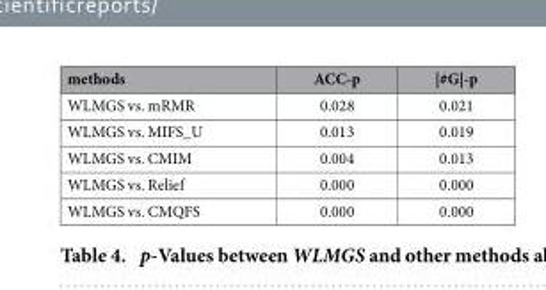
<table><thead><tr><td>methods</td><td>ACC-p</td><td>|#G|-p</td></tr></thead><tbody><tr><td>WLMGS vs. mRMR</td><td>0.028</td><td>0.021</td></tr><tr><td>WLMGS vs. MIFS_U</td><td>0.013</td><td>0.019</td></tr><tr><td>WLMGS vs. CMIM</td><td>0.004</td><td>0.013</td></tr><tr><td>WLMGS vs. Relief</td><td>0.000</td><td>0.000</td></tr><tr><td>WLMGS vs. CMQFS</td><td>0.000</td><td>0.000</td></tr></tbody></table>